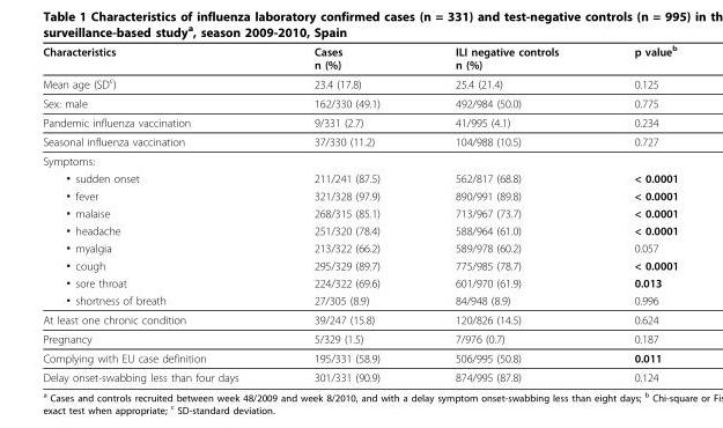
<table><thead><tr><td>Characteristics</td><td>Cases n (%)</td><td>ILI negative controls n (%)</td><td>p value<sup>b</sup></td></tr></thead><tbody><tr><td>Mean age (SD<sup>c</sup>)</td><td>23.4 (17.8)</td><td>25.4 (21.4)</td><td>0.125</td></tr><tr><td>Sex: male</td><td>162/330 (49.1)</td><td>492/984 (50.0)</td><td>0.775</td></tr><tr><td>Pandemic influenza vaccination</td><td>9/331 (2.7)</td><td>41/995 (4.1)</td><td>0.234</td></tr><tr><td>Seasonal influenza vaccination</td><td>37/330 (11.2)</td><td>104/988 (10.5)</td><td>0.727</td></tr><tr><td colspan="4">Symptoms:</td></tr><tr><td>▪ sudden onset</td><td>211/241 (87.5)</td><td>562/817 (68.8)</td><td>&lt; 0.0001</td></tr><tr><td>▪ fever</td><td>321/328 (97.9)</td><td>890/991 (89.8)</td><td>&lt; 0.0001</td></tr><tr><td>▪ malaise</td><td>268/315 (85.1)</td><td>713/967 (73.7)</td><td>&lt; 0.0001</td></tr><tr><td>▪ headache</td><td>251/320 (78.4)</td><td>588/964 (61.0)</td><td>&lt; 0.0001</td></tr><tr><td>▪ myalgia</td><td>213/322 (66.2)</td><td>589/978 (60.2)</td><td>0.057</td></tr><tr><td>▪ cough</td><td>295/329 (89.7)</td><td>775/985 (78.7)</td><td>&lt; 0.0001</td></tr><tr><td>▪ sore throat</td><td>224/322 (69.6)</td><td>601/970 (61.9)</td><td>0.013</td></tr><tr><td>▪ shortness of breath</td><td>27/305 (8.9)</td><td>84/948 (8.9)</td><td>0.996</td></tr><tr><td>At least one chronic condition</td><td>39/247 (15.8)</td><td>120/826 (14.5)</td><td>0.624</td></tr><tr><td>Pregnancy</td><td>5/329 (1.5)</td><td>7/976 (0.7)</td><td>0.187</td></tr><tr><td>Complying with EU case definition</td><td>195/331 (58.9)</td><td>506/995 (50.8)</td><td>0.011</td></tr><tr><td>Delay onset-swabbing less than four days</td><td>301/331 (90.9)</td><td>874/995 (87.8)</td><td>0.124</td></tr></tbody></table>